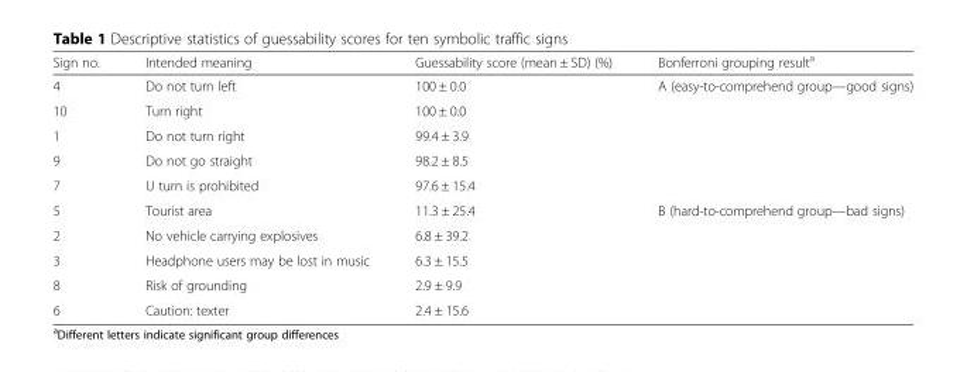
<table><thead><tr><td>Sign no.</td><td>Intended meaning</td><td>Guessability score (mean ± SD) (%)</td><td>Bonferroni grouping result<sup>a</sup></td></tr></thead><tbody><tr><td>4</td><td>Do not turn left</td><td>100 ± 0.0</td><td rowspan="5">A (easy-to-comprehend group—good signs)</td></tr><tr><td>10</td><td>Turn right</td><td>100 ± 0.0</td></tr><tr><td>1</td><td>Do not turn right</td><td>99.4 ± 3.9</td></tr><tr><td>9</td><td>Do not go straight</td><td>98.2 ± 8.5</td></tr><tr><td>7</td><td>U turn is prohibited</td><td>97.6 ± 15.4</td></tr><tr><td>5</td><td>Tourist area</td><td>11.3 ± 25.4</td><td rowspan="5">B (hard-to-comprehend group—bad signs)</td></tr><tr><td>2</td><td>No vehicle carrying explosives</td><td>6.8 ± 39.2</td></tr><tr><td>3</td><td>Headphone users may be lost in music</td><td>6.3 ± 15.5</td></tr><tr><td>8</td><td>Risk of grounding</td><td>2.9 ± 9.9</td></tr><tr><td>6</td><td>Caution: texter</td><td>2.4 ± 15.6</td></tr></tbody></table>